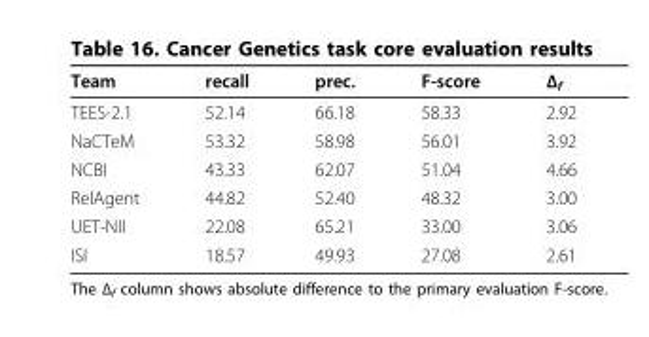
<table><thead><tr><td>Team</td><td>recall</td><td>prec.</td><td>F-score</td><td>Δ<sub>f</sub></td></tr></thead><tbody><tr><td>TEES-2.1</td><td>52.14</td><td>66.18</td><td>58.33</td><td>2.92</td></tr><tr><td>NaCTeM</td><td>53.32</td><td>58.98</td><td>56.01</td><td>3.92</td></tr><tr><td>NCBI</td><td>43.33</td><td>62.07</td><td>51.04</td><td>4.66</td></tr><tr><td>RelAgent</td><td>44.82</td><td>52.40</td><td>48.32</td><td>3.00</td></tr><tr><td>UET-NII</td><td>22.08</td><td>65.21</td><td>33.00</td><td>3.06</td></tr><tr><td>ISI</td><td>18.57</td><td>49.93</td><td>27.08</td><td>2.61</td></tr></tbody></table>